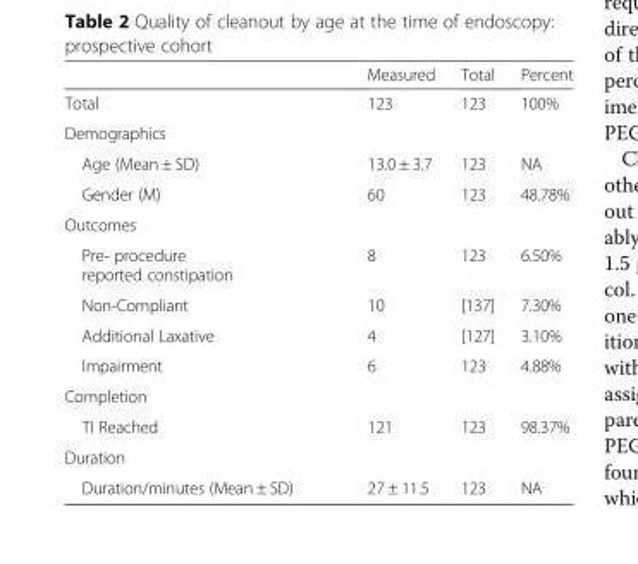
<table><thead><tr><td></td><td>Measured</td><td>Total</td><td>Percent</td></tr></thead><tbody><tr><td>Total</td><td>123</td><td>123</td><td>100%</td></tr><tr><td colspan="4">Demographics</td></tr><tr><td>Age (Mean ± SD)</td><td>13.0 ± 3.7</td><td>123</td><td>NA</td></tr><tr><td>Gender (M)</td><td>60</td><td>123</td><td>48.78%</td></tr><tr><td colspan="4">Outcomes</td></tr><tr><td>Pre- procedure reported constipation</td><td>8</td><td>123</td><td>6.50%</td></tr><tr><td>Non-Compliant</td><td>10</td><td>[137]</td><td>7.30%</td></tr><tr><td>Additional Laxative</td><td>4</td><td>[127]</td><td>3.10%</td></tr><tr><td>Impairment</td><td>6</td><td>123</td><td>4.88%</td></tr><tr><td colspan="4">Completion</td></tr><tr><td>TI Reached</td><td>121</td><td>123</td><td>98.37%</td></tr><tr><td colspan="4">Duration</td></tr><tr><td>Duration/minutes (Mean ± SD)</td><td>27 ± 11.5</td><td>123</td><td>NA</td></tr></tbody></table>